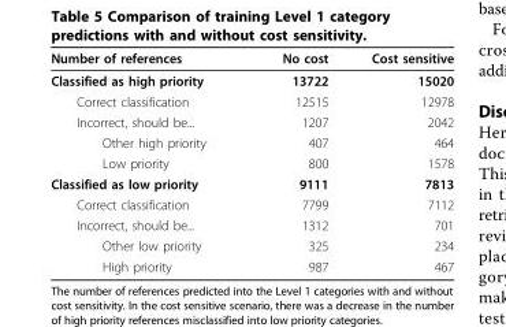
<table><thead><tr><td>Number of references</td><td>No cost</td><td>Cost sensitive</td></tr></thead><tbody><tr><td>Classified as high priority</td><td>13722</td><td>15020</td></tr><tr><td>Correct classification</td><td>12515</td><td>12978</td></tr><tr><td>Incorrect, should be...</td><td>1207</td><td>2042</td></tr><tr><td>Other high priority</td><td>407</td><td>464</td></tr><tr><td>Low priority</td><td>800</td><td>1578</td></tr><tr><td>Classified as low priority</td><td>9111</td><td>7813</td></tr><tr><td>Correct classification</td><td>7799</td><td>7112</td></tr><tr><td>Incorrect, should be...</td><td>1312</td><td>701</td></tr><tr><td>Other low priority</td><td>325</td><td>234</td></tr><tr><td>High priority</td><td>987</td><td>467</td></tr></tbody></table>